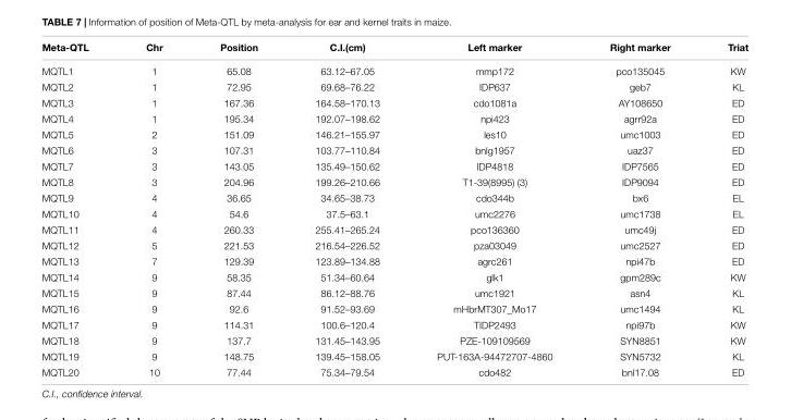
<table><thead><tr><td>Meta-QTL</td><td>Chr</td><td>Position</td><td>C.I.(cm)</td><td>Left marker</td><td>Right marker</td><td>Triat</td></tr></thead><tbody><tr><td>MQTL1</td><td>1</td><td>65.08</td><td>63.12–67.05</td><td>mmp172</td><td>pco135045</td><td>KW</td></tr><tr><td>MQTL2</td><td>1</td><td>72.95</td><td>69.68–76.22</td><td>IDP637</td><td>geb7</td><td>KL</td></tr><tr><td>MQTL3</td><td>1</td><td>167.36</td><td>164.58–170.13</td><td>cdo1081a</td><td>AY108650</td><td>ED</td></tr><tr><td>MQTL4</td><td>1</td><td>195.34</td><td>192.07–198.62</td><td>npi423</td><td>agrr92a</td><td>ED</td></tr><tr><td>MQTL5</td><td>2</td><td>151.09</td><td>146.21–155.97</td><td>les10</td><td>umc1003</td><td>ED</td></tr><tr><td>MQTL6</td><td>3</td><td>107.31</td><td>103.77–110.84</td><td>bnlg1957</td><td>uaz37</td><td>ED</td></tr><tr><td>MQTL7</td><td>3</td><td>143.05</td><td>135.49–150.62</td><td>IDP4818</td><td>IDP7565</td><td>ED</td></tr><tr><td>MQTL8</td><td>3</td><td>204.96</td><td>199.26–210.66</td><td>T1-39(8995) (3)</td><td>IDP9094</td><td>ED</td></tr><tr><td>MQTL9</td><td>4</td><td>36.65</td><td>34.65–38.73</td><td>cdo344b</td><td>bx6</td><td>EL</td></tr><tr><td>MQTL10</td><td>4</td><td>54.6</td><td>37.5–63.1</td><td>umc2276</td><td>umc1738</td><td>EL</td></tr><tr><td>MQTL11</td><td>4</td><td>260.33</td><td>255.41–265.24</td><td>pco136360</td><td>umc49j</td><td>ED</td></tr><tr><td>MQTL12</td><td>5</td><td>221.53</td><td>216.54–226.52</td><td>pza03049</td><td>umc2527</td><td>ED</td></tr><tr><td>MQTL13</td><td>7</td><td>129.39</td><td>123.89–134.88</td><td>agrc261</td><td>npi47b</td><td>ED</td></tr><tr><td>MQTL14</td><td>9</td><td>58.35</td><td>51.34–60.64</td><td>glk1</td><td>gpm289c</td><td>KW</td></tr><tr><td>MQTL15</td><td>9</td><td>87.44</td><td>86.12–88.76</td><td>umc1921</td><td>asn4</td><td>KL</td></tr><tr><td>MQTL16</td><td>9</td><td>92.6</td><td>91.52–93.69</td><td>mHbrMT307_Mo17</td><td>umc1494</td><td>KL</td></tr><tr><td>MQTL17</td><td>9</td><td>114.31</td><td>100.6–120.4</td><td>TIDP2493</td><td>npi97b</td><td>KW</td></tr><tr><td>MQTL18</td><td>9</td><td>137.7</td><td>131.45–143.95</td><td>PZE-109109569</td><td>SYN8851</td><td>KW</td></tr><tr><td>MQTL19</td><td>9</td><td>148.75</td><td>139.45–158.05</td><td>PUT-163A-94472707-4860</td><td>SYN5732</td><td>KL</td></tr><tr><td>MQTL20</td><td>10</td><td>77.44</td><td>75.34–79.54</td><td>cdo482</td><td>bnl17.08</td><td>ED</td></tr></tbody></table>